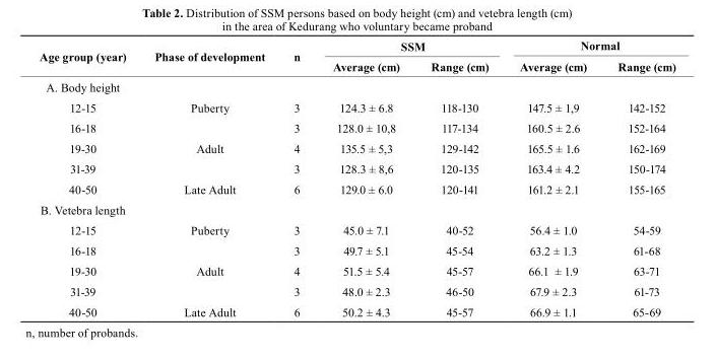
<table><thead><tr><td rowspan="2">Age group (year)</td><td rowspan="2">Phase of development</td><td rowspan="2">n</td><td colspan="2">SSM</td><td colspan="2">Normal</td></tr><tr><td>Average (cm)</td><td>Range (cm)</td><td>Average (cm)</td><td>Range (cm)</td></tr></thead><tbody><tr><td colspan="7">A. Body height</td></tr><tr><td>12-15</td><td>Puberty</td><td>3</td><td>124.3 ± 6.8</td><td>118-130</td><td>147.5 ± 1,9</td><td>142-152</td></tr><tr><td>16-18</td><td></td><td>3</td><td>128.0 ± 10,8</td><td>117-134</td><td>160.5 ± 2.6</td><td>152-164</td></tr><tr><td>19-30</td><td>Adult</td><td>4</td><td>135.5 ± 5,3</td><td>129-142</td><td>165.5 ± 1.6</td><td>162-169</td></tr><tr><td>31-39</td><td></td><td>3</td><td>128.3 ± 8,6</td><td>120-135</td><td>163.4 ± 4.2</td><td>150-174</td></tr><tr><td>40-50</td><td>Late Adult</td><td>6</td><td>129.0 ± 6.0</td><td>120-141</td><td>161.2 ± 2.1</td><td>155-165</td></tr><tr><td colspan="7">B. Vetebra length</td></tr><tr><td>12-15</td><td>Puberty</td><td>3</td><td>45.0 ± 7.1</td><td>40-52</td><td>56.4 ± 1.0</td><td>54-59</td></tr><tr><td>16-18</td><td></td><td>3</td><td>49.7 ± 5.1</td><td>45-54</td><td>63.2 ± 1.3</td><td>61-68</td></tr><tr><td>19-30</td><td>Adult</td><td>4</td><td>51.5 ± 5.4</td><td>45-57</td><td>66.1 ± 1.9</td><td>63-71</td></tr><tr><td>31-39</td><td></td><td>3</td><td>48.0 ± 2.3</td><td>46-50</td><td>67.9 ± 2.3</td><td>61-73</td></tr><tr><td>40-50</td><td>Late Adult</td><td>6</td><td>50.2 ± 4.3</td><td>45-57</td><td>66.9 ± 1.1</td><td>65-69</td></tr></tbody></table>